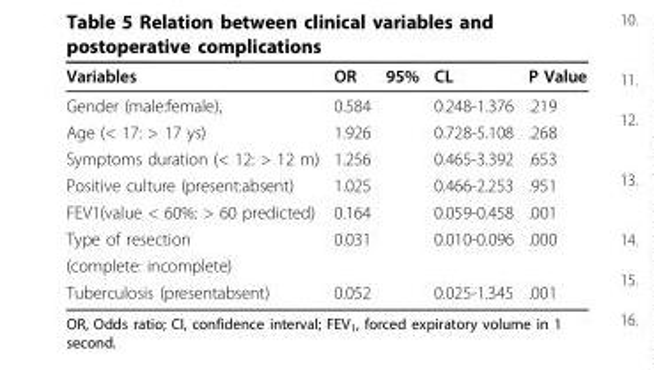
<table><thead><tr><td>Variables</td><td>OR</td><td>95%</td><td>CL</td><td>P Value</td></tr></thead><tbody><tr><td>Gender (male:female),</td><td>0.584</td><td></td><td>0.248-1.376</td><td>.219</td></tr><tr><td>Age (&lt; 17: &gt; 17 ys)</td><td>1.926</td><td></td><td>0.728-5.108</td><td>.268</td></tr><tr><td>Symptoms duration (&lt; 12: &gt; 12 m)</td><td>1.256</td><td></td><td>0.465-3.392</td><td>.653</td></tr><tr><td>Positive culture (present:absent)</td><td>1.025</td><td></td><td>0.466-2.253</td><td>.951</td></tr><tr><td>FEV1(value &lt; 60%: &gt; 60 predicted)</td><td>0.164</td><td></td><td>0.059-0.458</td><td>.001</td></tr><tr><td>Type of resection</td><td>0.031</td><td></td><td>0.010-0.096</td><td>.000</td></tr><tr><td colspan="5">(complete: incomplete)</td></tr><tr><td>Tuberculosis (presentabsent)</td><td>0.052</td><td></td><td>0.025-1.345</td><td>.001</td></tr></tbody></table>